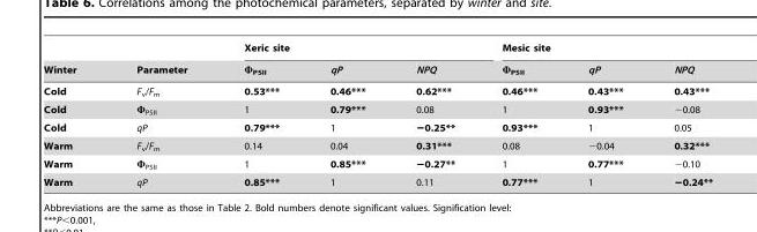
<table><thead><tr><td rowspan="2">Winter</td><td rowspan="2">Parameter</td><td colspan="3">Xeric site</td><td colspan="3">Mesic site</td></tr><tr><td>ΦPSII</td><td>qP</td><td>NPQ</td><td>Φ<sub>PSII</sub></td><td>qP</td><td>NPQ</td></tr></thead><tbody><tr><td>Cold</td><td>F<sub>v</sub>/F<sub>m</sub></td><td>0.53***</td><td>0.46***</td><td>0.62***</td><td>0.46***</td><td>0.43***</td><td>0.43***</td></tr><tr><td>Cold</td><td>Φ<sub>PSII</sub></td><td>1</td><td>0.79***</td><td>0.08</td><td>1</td><td>0.93***</td><td>−0.08</td></tr><tr><td>Cold</td><td>qP</td><td>0.79***</td><td>1</td><td>−0.25**</td><td>0.93***</td><td>1</td><td>0.05</td></tr><tr><td>Warm</td><td>F<sub>v</sub>/F<sub>m</sub></td><td>0.14</td><td>0.04</td><td>0.31***</td><td>0.08</td><td>−0.04</td><td>0.32***</td></tr><tr><td>Warm</td><td>Φ<sub>PSII</sub></td><td>1</td><td>0.85***</td><td>−0.27**</td><td>1</td><td>0.77***</td><td>−0.10</td></tr><tr><td>Warm</td><td>qP</td><td>0.85***</td><td>1</td><td>0.11</td><td>0.77***</td><td>1</td><td>−0.24**</td></tr></tbody></table>